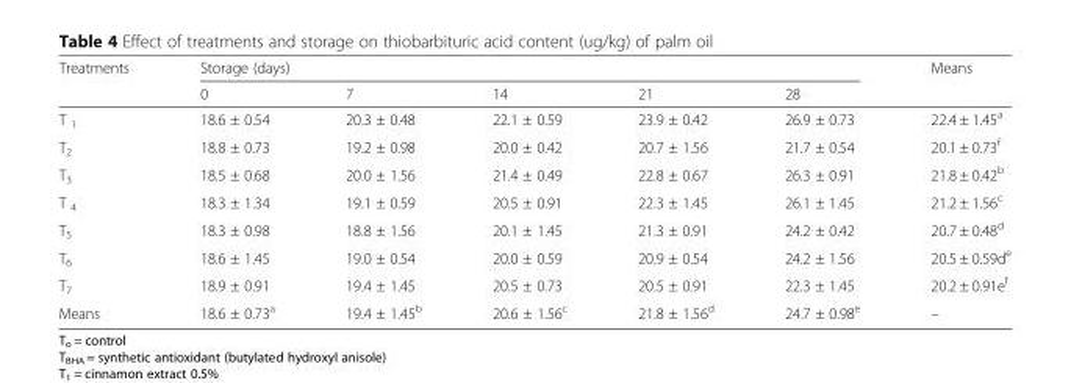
<table><thead><tr><td rowspan="2">Treatments</td><td colspan="5">Storage (days)</td><td rowspan="2">Means</td></tr><tr><td>0</td><td>7</td><td>14</td><td>21</td><td>28</td></tr></thead><tbody><tr><td>T <sub>1</sub></td><td>18.6 ± 0.54</td><td>20.3 ± 0.48</td><td>22.1 ± 0.59</td><td>23.9 ± 0.42</td><td>26.9 ± 0.73</td><td>22.4 ± 1.45<sup>a</sup></td></tr><tr><td>T<sub>2</sub></td><td>18.8 ± 0.73</td><td>19.2 ± 0.98</td><td>20.0 ± 0.42</td><td>20.7 ± 1.56</td><td>21.7 ± 0.54</td><td>20.1 ± 0.73<sup>f</sup></td></tr><tr><td>T<sub>3</sub></td><td>18.5 ± 0.68</td><td>20.0 ± 1.56</td><td>21.4 ± 0.49</td><td>22.8 ± 0.67</td><td>26.3 ± 0.91</td><td>21.8 ± 0.42<sup>b</sup></td></tr><tr><td>T <sub>4</sub></td><td>18.3 ± 1.34</td><td>19.1 ± 0.59</td><td>20.5 ± 0.91</td><td>22.3 ± 1.45</td><td>26.1 ± 1.45</td><td>21.2 ± 1.56<sup>c</sup></td></tr><tr><td>T<sub>5</sub></td><td>18.3 ± 0.98</td><td>18.8 ± 1.56</td><td>20.1 ± 1.45</td><td>21.3 ± 0.91</td><td>24.2 ± 0.42</td><td>20.7 ± 0.48<sup>d</sup></td></tr><tr><td>T<sub>6</sub></td><td>18.6 ± 1.45</td><td>19.0 ± 0.54</td><td>20.0 ± 0.59</td><td>20.9 ± 0.54</td><td>24.2 ± 1.56</td><td>20.5 ± 0.59d<sup>e</sup></td></tr><tr><td>T<sub>7</sub></td><td>18.9 ± 0.91</td><td>19.4 ± 1.45</td><td>20.5 ± 0.73</td><td>20.5 ± 0.91</td><td>22.3 ± 1.45</td><td>20.2 ± 0.91e<sup>f</sup></td></tr><tr><td>Means</td><td>18.6 ± 0.73<sup>a</sup></td><td>19.4 ± 1.45<sup>b</sup></td><td>20.6 ± 1.56<sup>c</sup></td><td>21.8 ± 1.56<sup>d</sup></td><td>24.7 ± 0.98<sup>e</sup></td><td>–</td></tr></tbody></table>